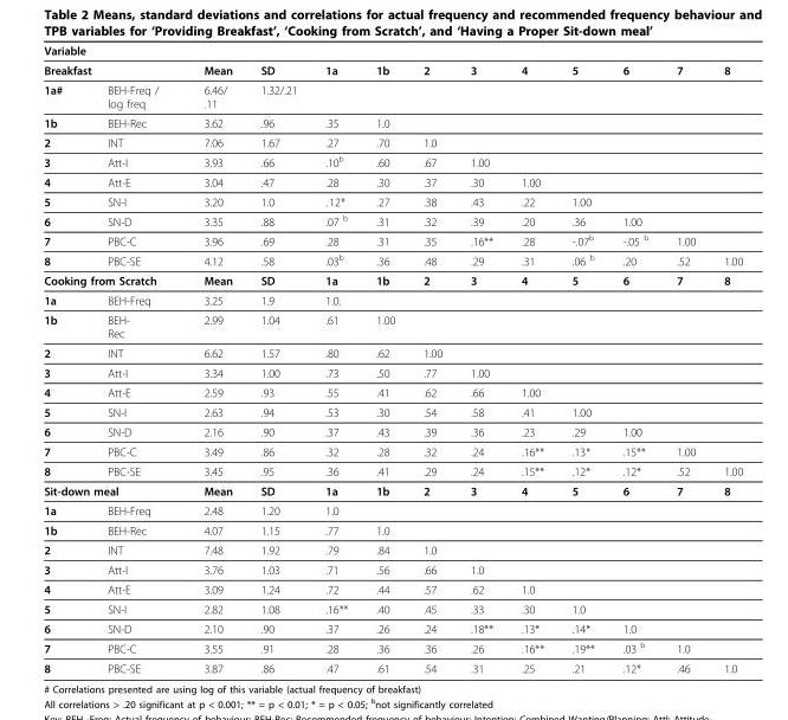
<table><thead><tr><td rowspan="2" colspan="2">Variable Breakfast</td><td rowspan="3">Mean 6.46/ .11</td><td rowspan="3">SD 1.32/.21</td><td rowspan="3">1a</td><td rowspan="3">1b</td><td rowspan="3">2</td><td rowspan="3">3</td><td rowspan="3">4</td><td rowspan="3">5</td><td rowspan="3">6</td><td rowspan="3">7</td><td rowspan="3">8</td></tr><tr></tr><tr><td>1a#</td><td>BEH-Freq / log freq</td></tr></thead><tbody><tr><td>1b</td><td>BEH-Rec</td><td>3.62</td><td>.96</td><td>.35</td><td>1.0</td><td></td><td></td><td></td><td></td><td></td><td></td><td></td></tr><tr><td>2</td><td>INT</td><td>7.06</td><td>1.67</td><td>.27</td><td>.70</td><td>1.0</td><td></td><td></td><td></td><td></td><td></td><td></td></tr><tr><td>3</td><td>Att-I</td><td>3.93</td><td>.66</td><td>.10<sup>b</sup></td><td>.60</td><td>.67</td><td>1.00</td><td></td><td></td><td></td><td></td><td></td></tr><tr><td>4</td><td>Att-E</td><td>3.04</td><td>.47</td><td>.28</td><td>.30</td><td>.37</td><td>.30</td><td>1.00</td><td></td><td></td><td></td><td></td></tr><tr><td>5</td><td>SN-I</td><td>3.20</td><td>1.0</td><td>.<sup>.</sup>12*</td><td>.27</td><td>.38</td><td>.43</td><td>.22</td><td>1.00</td><td></td><td></td><td></td></tr><tr><td>6</td><td>SN-D</td><td>3.35</td><td>.88</td><td>.07 <sup>b</sup></td><td>.31</td><td>.32</td><td>.39</td><td>.20</td><td>.36</td><td>1.00</td><td></td><td></td></tr><tr><td>7</td><td>PBC-C</td><td>3.96</td><td>.69</td><td>.28</td><td>.31</td><td>.35</td><td>.16**</td><td>.28</td><td>-.07<sup>b</sup></td><td>-.05 <sup>b</sup></td><td>1.00</td><td></td></tr><tr><td>8</td><td>PBC-SE</td><td>4.12</td><td>.58</td><td>.03<sup>b</sup></td><td>.36</td><td>.48</td><td>.29</td><td>.31</td><td>.06 <sup>b</sup></td><td>.20</td><td>.52</td><td>1.00</td></tr><tr><td colspan="2">Cooking from Scratch</td><td>Mean</td><td>SD</td><td>1a</td><td>1b</td><td>2</td><td>3</td><td>4</td><td>5</td><td>6</td><td>7</td><td>8</td></tr><tr><td>1a</td><td>BEH-Freq</td><td>3.25</td><td>1.9</td><td>1.0.</td><td></td><td></td><td></td><td></td><td></td><td></td><td></td><td></td></tr><tr><td>1b</td><td>BEH- Rec</td><td>2.99</td><td>1.04</td><td>.61</td><td>1.00</td><td></td><td></td><td></td><td></td><td></td><td></td><td></td></tr><tr><td>2</td><td>INT</td><td>6.62</td><td>1.57</td><td>.80</td><td>.62</td><td>1.00</td><td></td><td></td><td></td><td></td><td></td><td></td></tr><tr><td>3</td><td>Att-I</td><td>3.34</td><td>1.00</td><td>.73</td><td>.50</td><td>.77</td><td>1.00</td><td></td><td></td><td></td><td></td><td></td></tr><tr><td>4</td><td>Att-E</td><td>2.59</td><td>.93</td><td>.55</td><td>.41</td><td>.62</td><td>.66</td><td>1.00</td><td></td><td></td><td></td><td></td></tr><tr><td>5</td><td>SN-I</td><td>2.63</td><td>.94</td><td>.53</td><td>.30</td><td>.54</td><td>.58</td><td>.41</td><td>1.00</td><td></td><td></td><td></td></tr><tr><td>6</td><td>SN-D</td><td>2.16</td><td>.90</td><td>.37</td><td>.43</td><td>.39</td><td>.36</td><td>.23</td><td>.29</td><td>1.00</td><td></td><td></td></tr><tr><td>7</td><td>PBC-C</td><td>3.49</td><td>.86</td><td>.32</td><td>.28</td><td>.32</td><td>.24</td><td>.16**</td><td>.13*</td><td>.15**</td><td>1.00</td><td></td></tr><tr><td>8</td><td>PBC-SE</td><td>3.45</td><td>.95</td><td>.36</td><td>.41</td><td>.29</td><td>.24</td><td>.15**</td><td>.12*</td><td>.12*</td><td>.52</td><td>1.00</td></tr><tr><td colspan="2">Sit-down meal</td><td>Mean</td><td>SD</td><td>1a</td><td>1b</td><td>2</td><td>3</td><td>4</td><td>5</td><td>6</td><td>7</td><td>8</td></tr><tr><td>1a</td><td>BEH-Freq</td><td>2.48</td><td>1.20</td><td>1.0</td><td></td><td></td><td></td><td></td><td></td><td></td><td></td><td></td></tr><tr><td>1b</td><td>BEH-Rec</td><td>4.07</td><td>1.15</td><td>.77</td><td>1.0</td><td></td><td></td><td></td><td></td><td></td><td></td><td></td></tr><tr><td>2</td><td>INT</td><td>7.48</td><td>1.92</td><td>.79</td><td>.84</td><td>1.0</td><td></td><td></td><td></td><td></td><td></td><td></td></tr><tr><td>3</td><td>Att-I</td><td>3.76</td><td>1.03</td><td>.71</td><td>.56</td><td>.66</td><td>1.0</td><td></td><td></td><td></td><td></td><td></td></tr><tr><td>4</td><td>Att-E</td><td>3.09</td><td>1.24</td><td>.72</td><td>.44</td><td>.57</td><td>.62</td><td>1.0</td><td></td><td></td><td></td><td></td></tr><tr><td>5</td><td>SN-I</td><td>2.82</td><td>1.08</td><td>.16**</td><td>.40</td><td>.45</td><td>.33</td><td>.30</td><td>1.0</td><td></td><td></td><td></td></tr><tr><td>6</td><td>SN-D</td><td>2.10</td><td>.90</td><td>.37</td><td>.26</td><td>.24</td><td>.18**</td><td>.13*</td><td>.14*</td><td>1.0</td><td></td><td></td></tr><tr><td>7</td><td>PBC-C</td><td>3.55</td><td>.91</td><td>.28</td><td>.36</td><td>.36</td><td>.26</td><td>.16**</td><td>.19**</td><td>.03 <sup>b</sup></td><td>1.0</td><td></td></tr><tr><td>8</td><td>PBC-SE</td><td>3.87</td><td>.86</td><td>.47</td><td>.61</td><td>.54</td><td>.31</td><td>.25</td><td>.21</td><td>.12*</td><td>.46</td><td>1.0</td></tr></tbody></table>